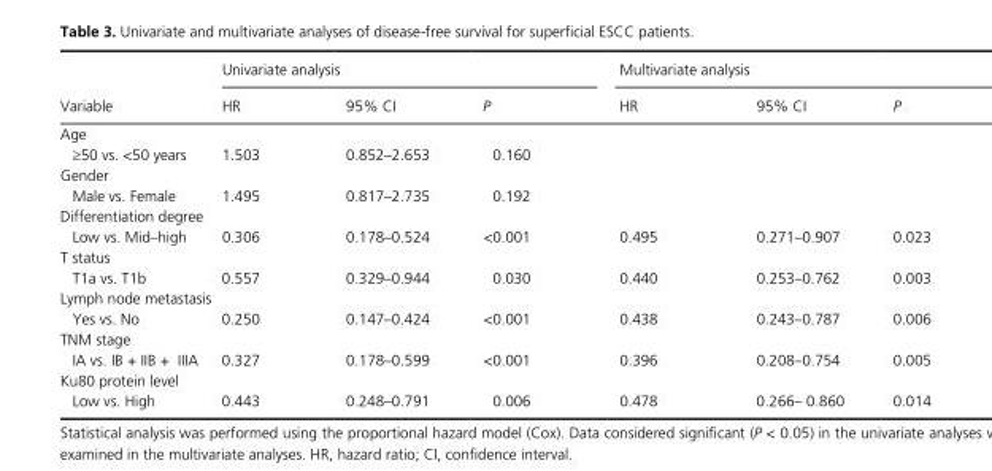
<table><thead><tr><td rowspan="2">Variable</td><td colspan="3">Univariate analysis</td><td colspan="3">Multivariate analysis</td></tr><tr><td>HR</td><td>95% CI</td><td>P</td><td>HR</td><td>95% CI</td><td>P</td></tr></thead><tbody><tr><td colspan="7">Age</td></tr><tr><td>≥50 vs. &lt;50 years</td><td>1.503</td><td>0.852–2.653</td><td>0.160</td><td></td><td></td><td></td></tr><tr><td colspan="7">Gender</td></tr><tr><td>Male vs. Female</td><td>1.495</td><td>0.817–2.735</td><td>0.192</td><td></td><td></td><td></td></tr><tr><td colspan="7">Differentiation degree</td></tr><tr><td>Low vs. Mid–high</td><td>0.306</td><td>0.178–0.524</td><td>&lt;0.001</td><td>0.495</td><td>0.271–0.907</td><td>0.023</td></tr><tr><td colspan="7">T status</td></tr><tr><td>T1a vs. T1b</td><td>0.557</td><td>0.329–0.944</td><td>0.030</td><td>0.440</td><td>0.253–0.762</td><td>0.003</td></tr><tr><td colspan="7">Lymph node metastasis</td></tr><tr><td>Yes vs. No</td><td>0.250</td><td>0.147–0.424</td><td>&lt;0.001</td><td>0.438</td><td>0.243–0.787</td><td>0.006</td></tr><tr><td colspan="7">TNM stage</td></tr><tr><td>IA vs. IB + IIB + IIIA</td><td>0.327</td><td>0.178–0.599</td><td>&lt;0.001</td><td>0.396</td><td>0.208–0.754</td><td>0.005</td></tr><tr><td colspan="7">Ku80 protein level</td></tr><tr><td>Low vs. High</td><td>0.443</td><td>0.248–0.791</td><td>0.006</td><td>0.478</td><td>0.266– 0.860</td><td>0.014</td></tr></tbody></table>